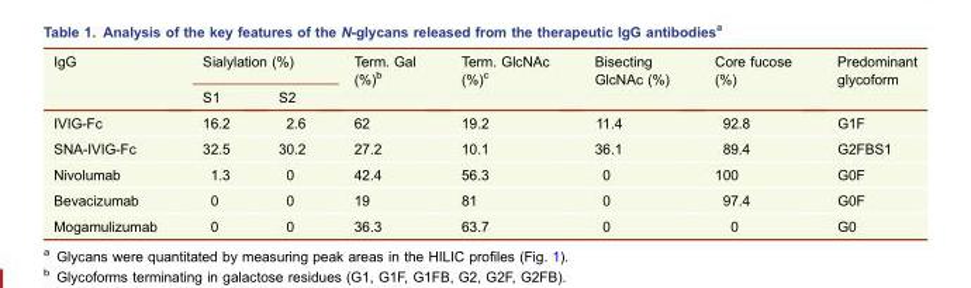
<table><thead><tr><td rowspan="2">IgG</td><td colspan="2">Sialylation (%)</td><td rowspan="2">Term. Gal (%)<sup>b</sup></td><td rowspan="2">Term. GlcNAc (%)<sup>c</sup></td><td rowspan="2">Bisecting GlcNAc (%)</td><td rowspan="2">Core fucose (%)</td><td rowspan="2">Predominant glycoform</td></tr><tr><td>S1</td><td>S2</td></tr></thead><tbody><tr><td>IVIG-Fc</td><td>16.2</td><td>2.6</td><td>62</td><td>19.2</td><td>11.4</td><td>92.8</td><td>G1F</td></tr><tr><td>SNA-IVIG-Fc</td><td>32.5</td><td>30.2</td><td>27.2</td><td>10.1</td><td>36.1</td><td>89.4</td><td>G2FBS1</td></tr><tr><td>Nivolumab</td><td>1.3</td><td>0</td><td>42.4</td><td>56.3</td><td>0</td><td>100</td><td>G0F</td></tr><tr><td>Bevacizumab</td><td>0</td><td>0</td><td>19</td><td>81</td><td>0</td><td>97.4</td><td>G0F</td></tr><tr><td>Mogamulizumab</td><td>0</td><td>0</td><td>36.3</td><td>63.7</td><td>0</td><td>0</td><td>G0</td></tr></tbody></table>